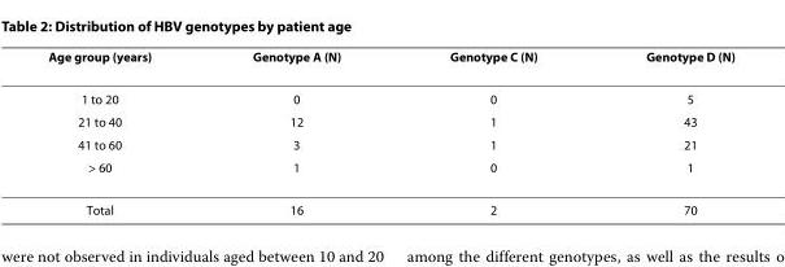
<table><thead><tr><td>Age group (years)</td><td>Genotype A (N)</td><td>Genotype C (N)</td><td>Genotype D (N)</td></tr></thead><tbody><tr><td>1 to 20</td><td>0</td><td>0</td><td>5</td></tr><tr><td>21 to 40</td><td>12</td><td>1</td><td>43</td></tr><tr><td>41 to 60</td><td>3</td><td>1</td><td>21</td></tr><tr><td>&gt; 60</td><td>1</td><td>0</td><td>1</td></tr><tr><td>Total</td><td>16</td><td>2</td><td>70</td></tr></tbody></table>